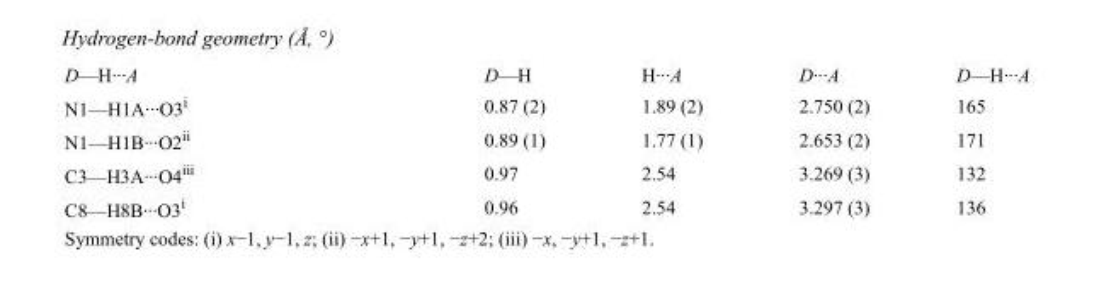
<table><tbody><tr><td>D—H···A</td><td>D—H</td><td>H···A</td><td>D···A</td><td>D—H···A</td></tr><tr><td>N1—H1A···O3<sup>i</sup></td><td>0.87 (2)</td><td>1.89 (2)</td><td>2.750 (2)</td><td>165</td></tr><tr><td>N1—H1B···O2<sup>ii</sup></td><td>0.89 (1)</td><td>1.77 (1)</td><td>2.653 (2)</td><td>171</td></tr><tr><td>C3—H3A···O4<sup>iii</sup></td><td>0.97</td><td>2.54</td><td>3.269 (3)</td><td>132</td></tr><tr><td>C8—H8B···O3<sup>i</sup></td><td>0.96</td><td>2.54</td><td>3.297 (3)</td><td>136</td></tr></tbody></table>